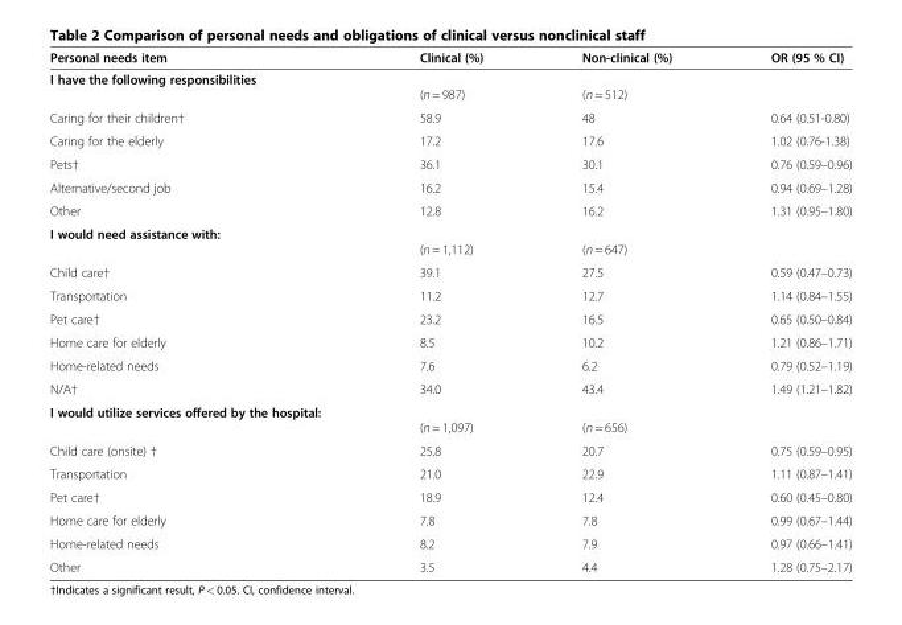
<table><thead><tr><td>Personal needs item</td><td>Clinical (%)</td><td>Non-clinical (%)</td><td>OR (95 % CI)</td></tr></thead><tbody><tr><td>I have the following responsibilities</td><td>(n = 987)</td><td>(n = 512)</td><td></td></tr><tr><td>Caring for their children†</td><td>58.9</td><td>48</td><td>0.64 (0.51-0.80)</td></tr><tr><td>Caring for the elderly</td><td>17.2</td><td>17.6</td><td>1.02 (0.76-1.38)</td></tr><tr><td>Pets†</td><td>36.1</td><td>30.1</td><td>0.76 (0.59–0.96)</td></tr><tr><td>Alternative/second job</td><td>16.2</td><td>15.4</td><td>0.94 (0.69–1.28)</td></tr><tr><td>Other</td><td>12.8</td><td>16.2</td><td>1.31 (0.95–1.80)</td></tr><tr><td>I would need assistance with:</td><td>(n = 1,112)</td><td>(n = 647)</td><td></td></tr><tr><td>Child care†</td><td>39.1</td><td>27.5</td><td>0.59 (0.47–0.73)</td></tr><tr><td>Transportation</td><td>11.2</td><td>12.7</td><td>1.14 (0.84–1.55)</td></tr><tr><td>Pet care†</td><td>23.2</td><td>16.5</td><td>0.65 (0.50–0.84)</td></tr><tr><td>Home care for elderly</td><td>8.5</td><td>10.2</td><td>1.21 (0.86–1.71)</td></tr><tr><td>Home-related needs</td><td>7.6</td><td>6.2</td><td>0.79 (0.52–1.19)</td></tr><tr><td>N/A†</td><td>34.0</td><td>43.4</td><td>1.49 (1.21–1.82)</td></tr><tr><td>I would utilize services offered by the hospital:</td><td>(n = 1,097)</td><td>(n = 656)</td><td></td></tr><tr><td>Child care (onsite) †</td><td>25.8</td><td>20.7</td><td>0.75 (0.59–0.95)</td></tr><tr><td>Transportation</td><td>21.0</td><td>22.9</td><td>1.11 (0.87–1.41)</td></tr><tr><td>Pet care†</td><td>18.9</td><td>12.4</td><td>0.60 (0.45–0.80)</td></tr><tr><td>Home care for elderly</td><td>7.8</td><td>7.8</td><td>0.99 (0.67–1.44)</td></tr><tr><td>Home-related needs</td><td>8.2</td><td>7.9</td><td>0.97 (0.66–1.41)</td></tr><tr><td>Other</td><td>3.5</td><td>4.4</td><td>1.28 (0.75–2.17)</td></tr></tbody></table>